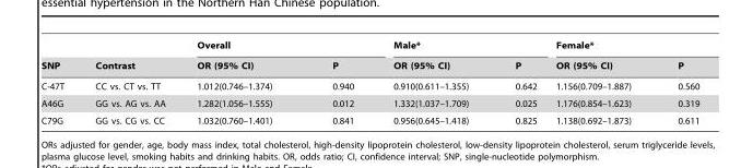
<table><thead><tr><td rowspan="2">SNP</td><td rowspan="2">Contrast</td><td colspan="2">Overall</td><td colspan="2">Male*</td><td colspan="2">Female*</td></tr><tr><td>OR (95% CI)</td><td>P</td><td>OR (95% CI)</td><td>P</td><td>OR (95% CI)</td><td>P</td></tr></thead><tbody><tr><td>C-47T</td><td>CC vs. CT vs. TT</td><td>1.012(0.746–1.374)</td><td>0.940</td><td>0.910(0.611–1.355)</td><td>0.642</td><td>1.156(0.709–1.887)</td><td>0.560</td></tr><tr><td>A46G</td><td>GG vs. AG vs. AA</td><td>1.282(1.056–1.555)</td><td>0.012</td><td>1.332(1.037–1.709)</td><td>0.025</td><td>1.176(0.854–1.623)</td><td>0.319</td></tr><tr><td>C79G</td><td>GG vs. CG vs. CC</td><td>1.032(0.760–1.401)</td><td>0.841</td><td>0.956(0.645–1.418)</td><td>0.825</td><td>1.138(0.692–1.873)</td><td>0.611</td></tr></tbody></table>